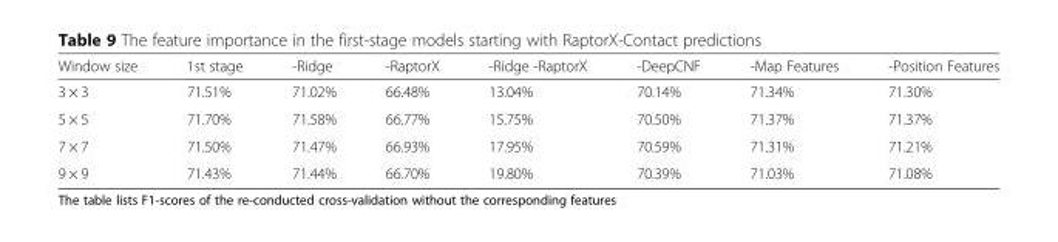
<table><thead><tr><td>Window size</td><td>1st stage</td><td>-Ridge</td><td>-RaptorX</td><td>-Ridge -RaptorX</td><td>-DeepCNF</td><td>-Map Features</td><td>-Position Features</td></tr></thead><tbody><tr><td>3 × 3</td><td>71.51%</td><td>71.02%</td><td>66.48%</td><td>13.04%</td><td>70.14%</td><td>71.34%</td><td>71.30%</td></tr><tr><td>5 × 5</td><td>71.70%</td><td>71.58%</td><td>66.77%</td><td>15.75%</td><td>70.50%</td><td>71.37%</td><td>71.37%</td></tr><tr><td>7 × 7</td><td>71.50%</td><td>71.47%</td><td>66.93%</td><td>17.95%</td><td>70.59%</td><td>71.31%</td><td>71.21%</td></tr><tr><td>9 × 9</td><td>71.43%</td><td>71.44%</td><td>66.70%</td><td>19.80%</td><td>70.39%</td><td>71.03%</td><td>71.08%</td></tr></tbody></table>